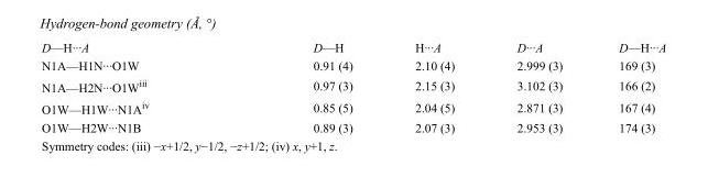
<table><tbody><tr><td>D—H···A</td><td>D—H</td><td>H···A</td><td>D···A</td><td>D—H···A</td></tr><tr><td>N1A—H1N···O1W</td><td>0.91 (4)</td><td>2.10 (4)</td><td>2.999 (3)</td><td>169 (3)</td></tr><tr><td>N1A—H2N···O1W<sup>iii</sup></td><td>0.97 (3)</td><td>2.15 (3)</td><td>3.102 (3)</td><td>166 (2)</td></tr><tr><td>O1W—H1W···N1A<sup>iv</sup></td><td>0.85 (5)</td><td>2.04 (5)</td><td>2.871 (3)</td><td>167 (4)</td></tr><tr><td>O1W—H2W···N1B</td><td>0.89 (3)</td><td>2.07 (3)</td><td>2.953 (3)</td><td>174 (3)</td></tr></tbody></table>